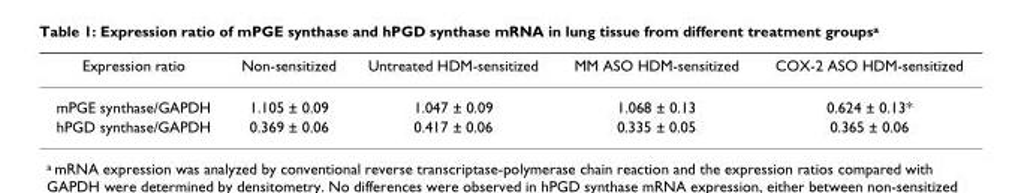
<table><thead><tr><td>Expression ratio</td><td>Non-sensitized</td><td>Untreated HDM-sensitized</td><td>MM ASO HDM-sensitized</td><td>COX-2 ASO HDM-sensitized</td></tr></thead><tbody><tr><td>mPGE synthase/GAPDH</td><td>1.105 ± 0.09</td><td>1.047 ± 0.09</td><td>1.068 ± 0.13</td><td>0.624 ± 0.13*</td></tr><tr><td>hPGD synthase/GAPDH</td><td>0.369 ± 0.06</td><td>0.417 ± 0.06</td><td>0.335 ± 0.05</td><td>0.365 ± 0.06</td></tr></tbody></table>